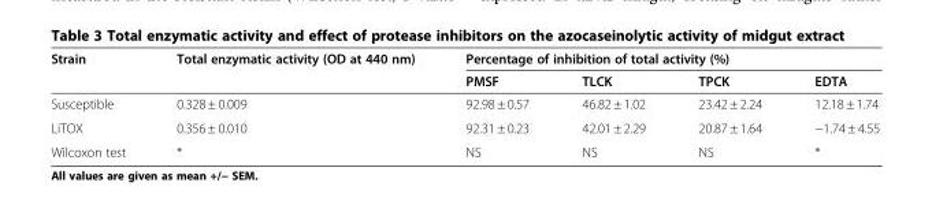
<table><thead><tr><td rowspan="2">Strain</td><td rowspan="2">Total enzymatic activity (OD at 440 nm)</td><td colspan="4">Percentage of inhibition of total activity (%)</td></tr><tr><td>PMSF</td><td>TLCK</td><td>TPCK</td><td>EDTA</td></tr></thead><tbody><tr><td>Susceptible</td><td>0.328 ± 0.009</td><td>92.98 ± 0.57</td><td>46.82 ± 1.02</td><td>23.42 ± 2.24</td><td>12.18 ± 1.74</td></tr><tr><td>LiTOX</td><td>0.356 ± 0.010</td><td>92.31 ± 0.23</td><td>42.01 ± 2.29</td><td>20.87 ± 1.64</td><td>−1.74 ± 4.55</td></tr><tr><td>Wilcoxon test</td><td>*</td><td>NS</td><td>NS</td><td>NS</td><td>*</td></tr></tbody></table>